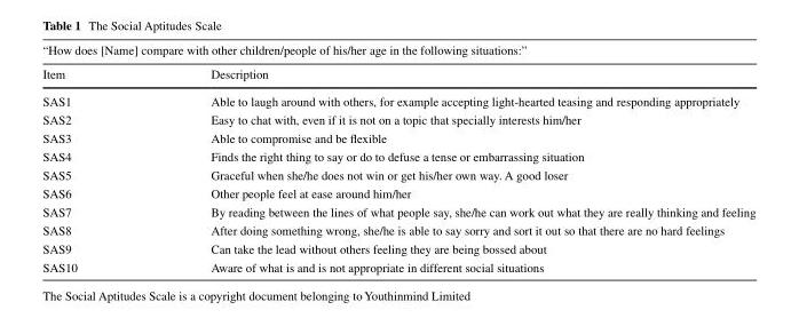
<table><thead><tr><td colspan="2">“How does [Name] compare with other children/people of his/her age in the following situations:”</td></tr><tr><td>Item</td><td>Description</td></tr></thead><tbody><tr><td>SAS1</td><td>Able to laugh around with others, for example accepting light-hearted teasing and responding appropriately</td></tr><tr><td>SAS2</td><td>Easy to chat with, even if it is not on a topic that specially interests him/her</td></tr><tr><td>SAS3</td><td>Able to compromise and be flexible</td></tr><tr><td>SAS4</td><td>Finds the right thing to say or do to defuse a tense or embarrassing situation</td></tr><tr><td>SAS5</td><td>Graceful when she/he does not win or get his/her own way. A good loser</td></tr><tr><td>SAS6</td><td>Other people feel at ease around him/her</td></tr><tr><td>SAS7</td><td>By reading between the lines of what people say, she/he can work out what they are really thinking and feeling</td></tr><tr><td>SAS8</td><td>After doing something wrong, she/he is able to say sorry and sort it out so that there are no hard feelings</td></tr><tr><td>SAS9</td><td>Can take the lead without others feeling they are being bossed about</td></tr><tr><td>SAS10</td><td>Aware of what is and is not appropriate in different social situations</td></tr></tbody></table>